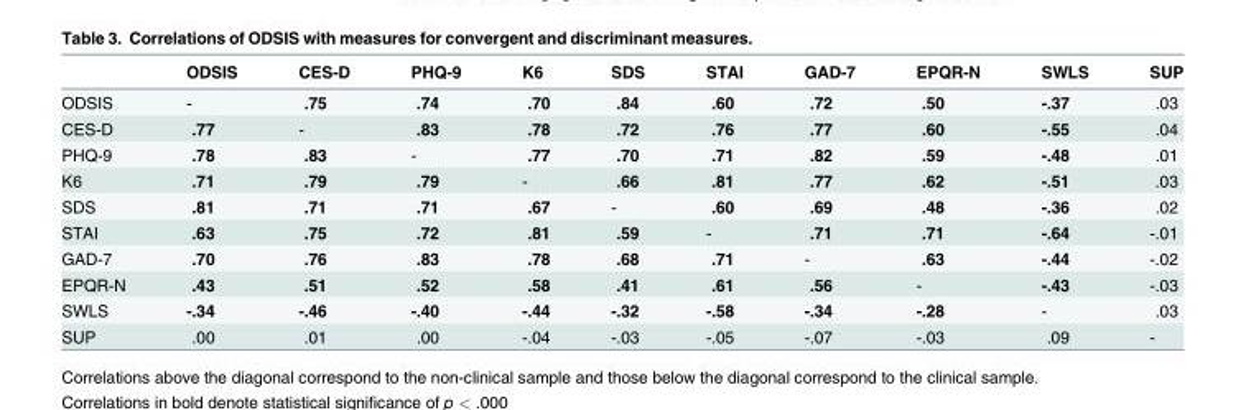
<table><thead><tr><td></td><td>ODSIS</td><td>CES-D</td><td>PHQ-9</td><td>K6</td><td>SDS</td><td>STAI</td><td>GAD-7</td><td>EPQR-N</td><td>SWLS</td><td>SUP</td></tr></thead><tbody><tr><td>ODSIS</td><td>-</td><td>.75</td><td>.74</td><td>.70</td><td>.84</td><td>.60</td><td>.72</td><td>.50</td><td>-.37</td><td>.03</td></tr><tr><td>CES-D</td><td>.77</td><td>-</td><td>.83</td><td>.78</td><td>.72</td><td>.76</td><td>.77</td><td>.60</td><td>-.55</td><td>.04</td></tr><tr><td>PHQ-9</td><td>.78</td><td>.83</td><td>-</td><td>.77</td><td>.70</td><td>.71</td><td>.82</td><td>.59</td><td>-.48</td><td>.01</td></tr><tr><td>K6</td><td>.71</td><td>.79</td><td>.79</td><td>-</td><td>.66</td><td>.81</td><td>.77</td><td>.62</td><td>-.51</td><td>.03</td></tr><tr><td>SDS</td><td>.81</td><td>.71</td><td>.71</td><td>.67</td><td>-</td><td>.60</td><td>.69</td><td>.48</td><td>-.36</td><td>.02</td></tr><tr><td>STAI</td><td>.63</td><td>.75</td><td>.72</td><td>.81</td><td>.59</td><td>-</td><td>.71</td><td>.71</td><td>-.64</td><td>-.01</td></tr><tr><td>GAD-7</td><td>.70</td><td>.76</td><td>.83</td><td>.78</td><td>.68</td><td>.71</td><td>-</td><td>.63</td><td>-.44</td><td>-.02</td></tr><tr><td>EPQR-N</td><td>.43</td><td>.51</td><td>.52</td><td>.58</td><td>.41</td><td>.61</td><td>.56</td><td>-</td><td>-.43</td><td>-.03</td></tr><tr><td>SWLS</td><td>-.34</td><td>-.46</td><td>-.40</td><td>-.44</td><td>-.32</td><td>-.58</td><td>-.34</td><td>-.28</td><td>-</td><td>.03</td></tr><tr><td>SUP</td><td>.00</td><td>.01</td><td>.00</td><td>-.04</td><td>-.03</td><td>-.05</td><td>-.07</td><td>-.03</td><td>.09</td><td>-</td></tr></tbody></table>